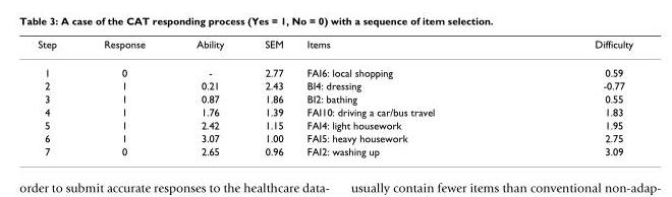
<table><thead><tr><td>Step</td><td>Response</td><td>Ability</td><td>SEM</td><td>Items</td><td>Difficulty</td></tr></thead><tbody><tr><td>1</td><td>0</td><td>-</td><td>2.77</td><td>FAI6: local shopping</td><td>0.59</td></tr><tr><td>2</td><td>1</td><td>0.21</td><td>2.43</td><td>BI4: dressing</td><td>-0.77</td></tr><tr><td>3</td><td>1</td><td>0.87</td><td>1.86</td><td>BI2: bathing</td><td>0.55</td></tr><tr><td>4</td><td>1</td><td>1.76</td><td>1.39</td><td>FAI10: driving a car/bus travel</td><td>1.83</td></tr><tr><td>5</td><td>1</td><td>2.42</td><td>1.15</td><td>FAI4: light housework</td><td>1.95</td></tr><tr><td>6</td><td>1</td><td>3.07</td><td>1.00</td><td>FAI5: heavy housework</td><td>2.75</td></tr><tr><td>7</td><td>0</td><td>2.65</td><td>0.96</td><td>FAI2: washing up</td><td>3.09</td></tr></tbody></table>